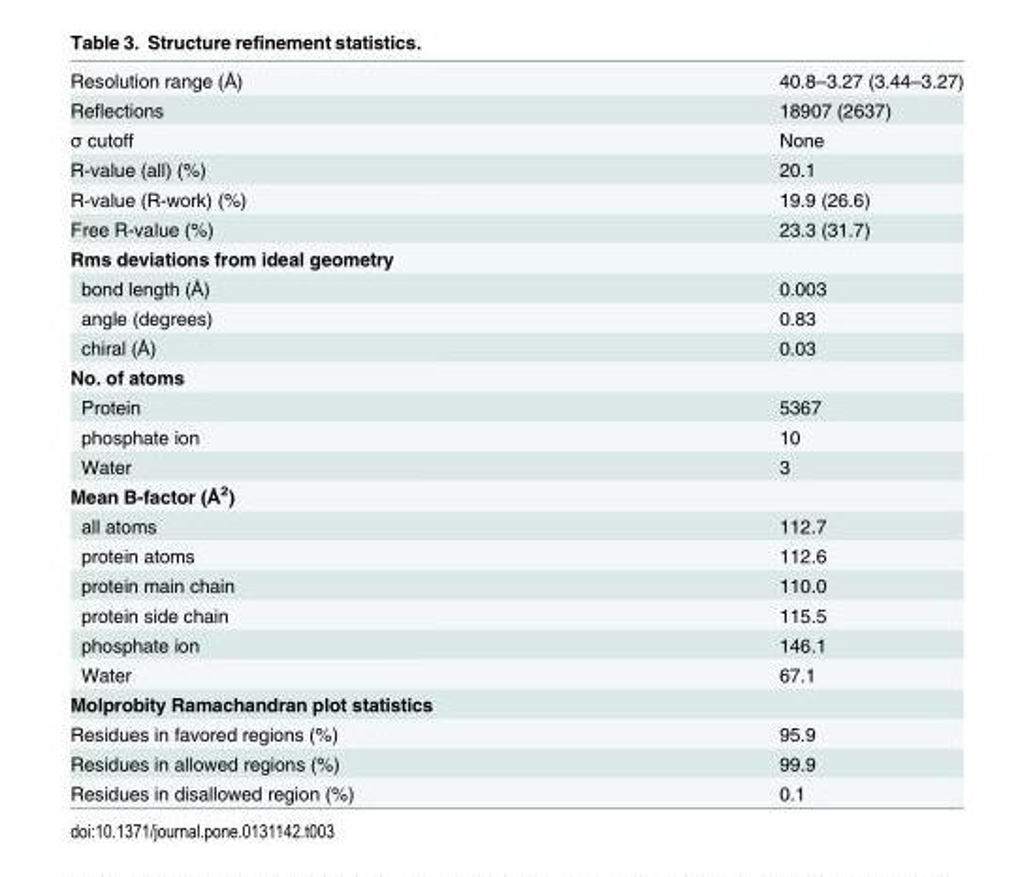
<table><tbody><tr><td>Resolution range (Å)</td><td>40.8–3.27 (3.44–3.27)</td></tr><tr><td>Reflections</td><td>18907 (2637)</td></tr><tr><td>σ cutoff</td><td>None</td></tr><tr><td>R-value (all) (%)</td><td>20.1</td></tr><tr><td>R-value (R-work) (%)</td><td>19.9 (26.6)</td></tr><tr><td>Free R-value (%)</td><td>23.3 (31.7)</td></tr><tr><td colspan="2">Rms deviations from ideal geometry</td></tr><tr><td>bond length (Å)</td><td>0.003</td></tr><tr><td>angle (degrees)</td><td>0.83</td></tr><tr><td>chiral (Å)</td><td>0.03</td></tr><tr><td colspan="2">No. of atoms</td></tr><tr><td>Protein</td><td>5367</td></tr><tr><td>phosphate ion</td><td>10</td></tr><tr><td>Water</td><td>3</td></tr><tr><td colspan="2">Mean B-factor (Å<sup>2</sup>)</td></tr><tr><td>all atoms</td><td>112.7</td></tr><tr><td>protein atoms</td><td>112.6</td></tr><tr><td>protein main chain</td><td>110.0</td></tr><tr><td>protein side chain</td><td>115.5</td></tr><tr><td>phosphate ion</td><td>146.1</td></tr><tr><td>Water</td><td>67.1</td></tr><tr><td colspan="2">Molprobity Ramachandran plot statistics</td></tr><tr><td>Residues in favored regions (%)</td><td>95.9</td></tr><tr><td>Residues in allowed regions (%)</td><td>99.9</td></tr><tr><td>Residues in disallowed region (%)</td><td>0.1</td></tr></tbody></table>